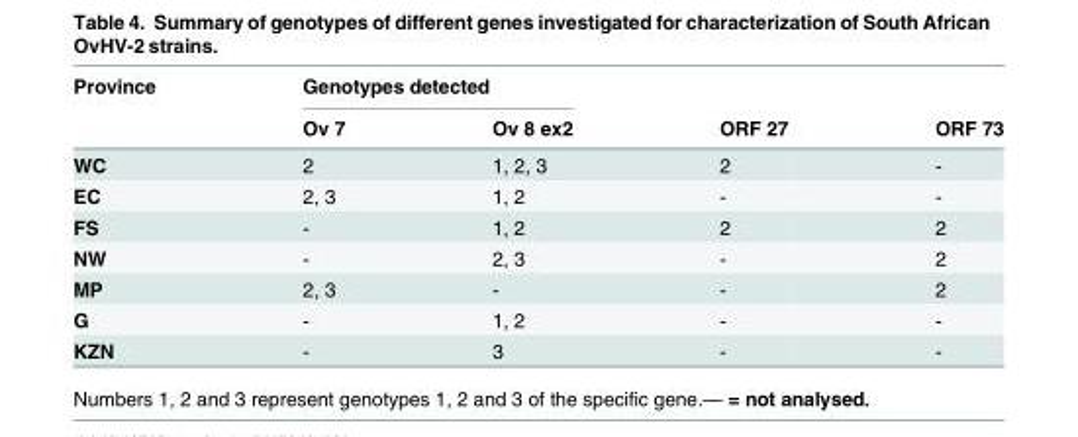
<table><thead><tr><td rowspan="2">Province</td><td colspan="2">Genotypes detected</td><td rowspan="2">ORF 27</td><td rowspan="2">ORF 73</td></tr><tr><td>Ov 7</td><td>Ov 8 ex2</td></tr></thead><tbody><tr><td>WC</td><td>2</td><td>1, 2, 3</td><td>2</td><td>-</td></tr><tr><td>EC</td><td>2, 3</td><td>1, 2</td><td>-</td><td>-</td></tr><tr><td>FS</td><td>-</td><td>1, 2</td><td>2</td><td>2</td></tr><tr><td>NW</td><td>-</td><td>2, 3</td><td>-</td><td>2</td></tr><tr><td>MP</td><td>2, 3</td><td>-</td><td>-</td><td>2</td></tr><tr><td>G</td><td>-</td><td>1, 2</td><td>-</td><td>-</td></tr><tr><td>KZN</td><td>-</td><td>3</td><td>-</td><td>-</td></tr></tbody></table>